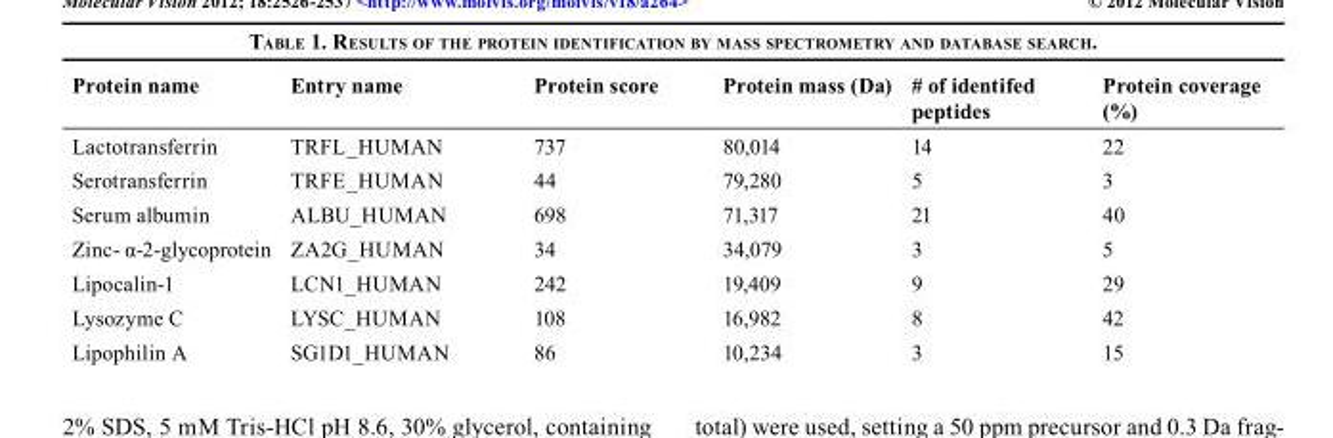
<table><thead><tr><td>Protein name</td><td>Entry name</td><td>Protein score</td><td>Protein mass (Da)</td><td># of identifed peptides</td><td>Protein coverage (%)</td></tr></thead><tbody><tr><td>Lactotransferrin</td><td>TRFL_HUMAN</td><td>737</td><td>80,014</td><td>14</td><td>22</td></tr><tr><td>Serotransferrin</td><td>TRFE_HUMAN</td><td>44</td><td>79,280</td><td>5</td><td>3</td></tr><tr><td>Serum albumin</td><td>ALBU_HUMAN</td><td>698</td><td>71,317</td><td>21</td><td>40</td></tr><tr><td>Zinc- α-2-glycoprotein</td><td>ZA2G_HUMAN</td><td>34</td><td>34,079</td><td>3</td><td>5</td></tr><tr><td>Lipocalin-1</td><td>LCN1_HUMAN</td><td>242</td><td>19,409</td><td>9</td><td>29</td></tr><tr><td>Lysozyme C</td><td>LYSC_HUMAN</td><td>108</td><td>16,982</td><td>8</td><td>42</td></tr><tr><td>Lipophilin A</td><td>SG1D1_HUMAN</td><td>86</td><td>10,234</td><td>3</td><td>15</td></tr></tbody></table>